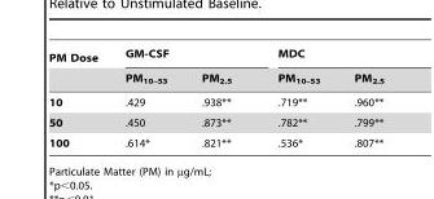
<table><thead><tr><td rowspan="2">PM Dose</td><td colspan="2">GM-CSF</td><td colspan="2">MDC</td></tr><tr><td>PM<sub>10–53</sub></td><td>PM<sub>2.5</sub></td><td>PM<sub>10–53</sub></td><td>PM<sub>2.5</sub></td></tr></thead><tbody><tr><td>10</td><td>.429</td><td>.938**</td><td>.719**</td><td>.960**</td></tr><tr><td>50</td><td>.450</td><td>.873**</td><td>.782**</td><td>.799**</td></tr><tr><td>100</td><td>.614*</td><td>.821**</td><td>.536*</td><td>.807**</td></tr></tbody></table>